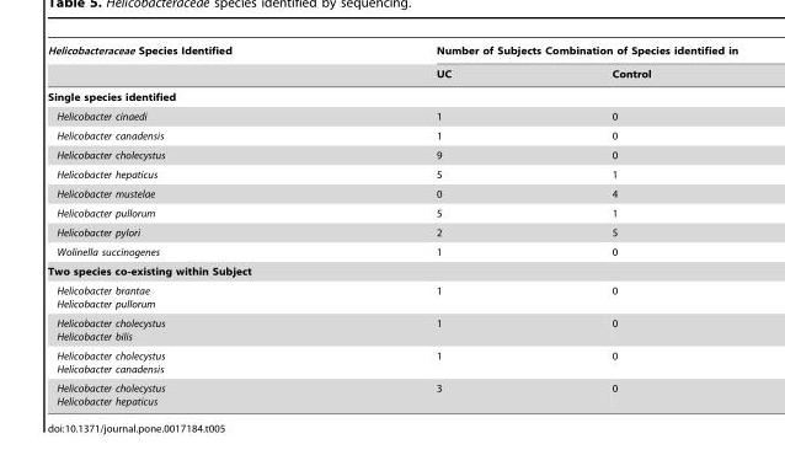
<table><thead><tr><td rowspan="2">Helicobacteraceae Species Identified</td><td colspan="2">Number of Subjects Combination of Species identified in</td></tr><tr><td>UC</td><td>Control</td></tr></thead><tbody><tr><td colspan="3">Single species identified</td></tr><tr><td>Helicobacter cinaedi</td><td>1</td><td>0</td></tr><tr><td>Helicobacter canadensis</td><td>1</td><td>0</td></tr><tr><td>Helicobacter cholecystus</td><td>9</td><td>0</td></tr><tr><td>Helicobacter hepaticus</td><td>5</td><td>1</td></tr><tr><td>Helicobacter mustelae</td><td>0</td><td>4</td></tr><tr><td>Helicobacter pullorum</td><td>5</td><td>1</td></tr><tr><td>Helicobacter pylori</td><td>2</td><td>5</td></tr><tr><td>Wolinella succinogenes</td><td>1</td><td>0</td></tr><tr><td colspan="3">Two species co-existing within Subject</td></tr><tr><td>Helicobacter brantae Helicobacter pullorum</td><td>1</td><td>0</td></tr><tr><td>Helicobacter cholecystus Helicobacter bilis</td><td>1</td><td>0</td></tr><tr><td>Helicobacter cholecystus Helicobacter canadensis</td><td>1</td><td>0</td></tr><tr><td>Helicobacter cholecystus Helicobacter hepaticus</td><td>3</td><td>0</td></tr></tbody></table>